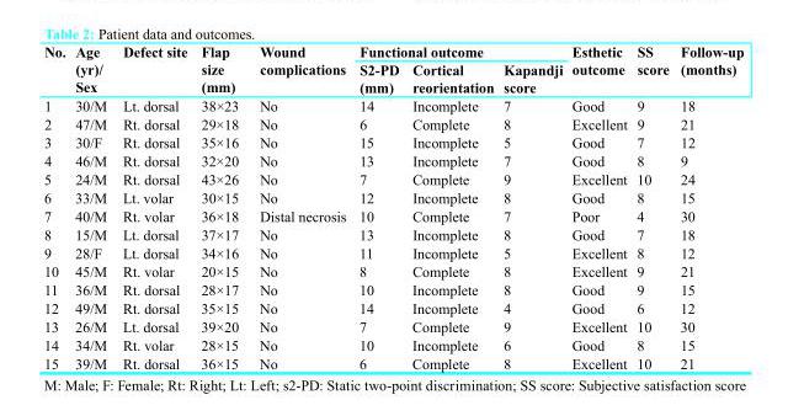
<table><thead><tr><td rowspan="2">No.</td><td rowspan="2">Age (yr)/ Sex</td><td rowspan="2">Defect site</td><td rowspan="2">Flap size (mm)</td><td rowspan="2">Wound complications</td><td colspan="3">Functional outcome</td><td rowspan="2">Esthetic outcome</td><td rowspan="2">SS score</td><td rowspan="2">Follow-up (months)</td></tr><tr><td>S2-PD (mm)</td><td>Cortical reorientation</td><td>Kapandji score</td></tr></thead><tbody><tr><td>1</td><td>30/M</td><td>Lt. dorsal</td><td>38×23</td><td>No</td><td>14</td><td>Incomplete</td><td>7</td><td>Good</td><td>9</td><td>18</td></tr><tr><td>2</td><td>47/M</td><td>Rt. dorsal</td><td>29×18</td><td>No</td><td>6</td><td>Complete</td><td>8</td><td>Excellent</td><td>9</td><td>21</td></tr><tr><td>3</td><td>30/F</td><td>Rt. dorsal</td><td>35×16</td><td>No</td><td>15</td><td>Incomplete</td><td>5</td><td>Good</td><td>7</td><td>12</td></tr><tr><td>4</td><td>46/M</td><td>Rt. dorsal</td><td>32×20</td><td>No</td><td>13</td><td>Incomplete</td><td>7</td><td>Good</td><td>8</td><td>9</td></tr><tr><td>5</td><td>24/M</td><td>Rt. dorsal</td><td>43×26</td><td>No</td><td>7</td><td>Complete</td><td>9</td><td>Excellent</td><td>10</td><td>24</td></tr><tr><td>6</td><td>33/M</td><td>Lt. volar</td><td>30×15</td><td>No</td><td>12</td><td>Incomplete</td><td>8</td><td>Good</td><td>8</td><td>15</td></tr><tr><td>7</td><td>40/M</td><td>Rt. volar</td><td>36×18</td><td>Distal necrosis</td><td>10</td><td>Complete</td><td>7</td><td>Poor</td><td>4</td><td>30</td></tr><tr><td>8</td><td>15/M</td><td>Lt. dorsal</td><td>37×17</td><td>No</td><td>13</td><td>Incomplete</td><td>8</td><td>Good</td><td>7</td><td>18</td></tr><tr><td>9</td><td>28/F</td><td>Lt. dorsal</td><td>34×16</td><td>No</td><td>11</td><td>Incomplete</td><td>5</td><td>Excellent</td><td>8</td><td>12</td></tr><tr><td>10</td><td>45/M</td><td>Rt. volar</td><td>20×15</td><td>No</td><td>8</td><td>Complete</td><td>8</td><td>Excellent</td><td>9</td><td>21</td></tr><tr><td>11</td><td>36/M</td><td>Rt. dorsal</td><td>28×17</td><td>No</td><td>10</td><td>Incomplete</td><td>8</td><td>Good</td><td>9</td><td>15</td></tr><tr><td>12</td><td>49/M</td><td>Rt. dorsal</td><td>35×15</td><td>No</td><td>14</td><td>Incomplete</td><td>4</td><td>Good</td><td>6</td><td>12</td></tr><tr><td>13</td><td>26/M</td><td>Lt. dorsal</td><td>39×20</td><td>No</td><td>7</td><td>Complete</td><td>9</td><td>Excellent</td><td>10</td><td>30</td></tr><tr><td>14</td><td>34/M</td><td>Rt. volar</td><td>28×15</td><td>No</td><td>10</td><td>Incomplete</td><td>6</td><td>Good</td><td>8</td><td>15</td></tr><tr><td>15</td><td>39/M</td><td>Rt. dorsal</td><td>36×15</td><td>No</td><td>6</td><td>Complete</td><td>8</td><td>Excellent</td><td>10</td><td>21</td></tr></tbody></table>